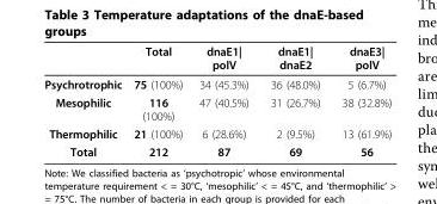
<table><thead><tr><td></td><td>Total</td><td>dnaE1| polV</td><td>dnaE1| dnaE2</td><td>dnaE3| polV</td></tr></thead><tbody><tr><td>Psychrotrophic</td><td>75 (100%)</td><td>34 (45.3%)</td><td>36 (48.0%)</td><td>5 (6.7%)</td></tr><tr><td>Mesophilic</td><td>116 (100%)</td><td>47 (40.5%)</td><td>31 (26.7%)</td><td>38 (32.8%)</td></tr><tr><td>Thermophilic</td><td>21 (100%)</td><td>6 (28.6%)</td><td>2 (9.5%)</td><td>13 (61.9%)</td></tr><tr><td>Total</td><td>212</td><td>87</td><td>69</td><td>56</td></tr></tbody></table>